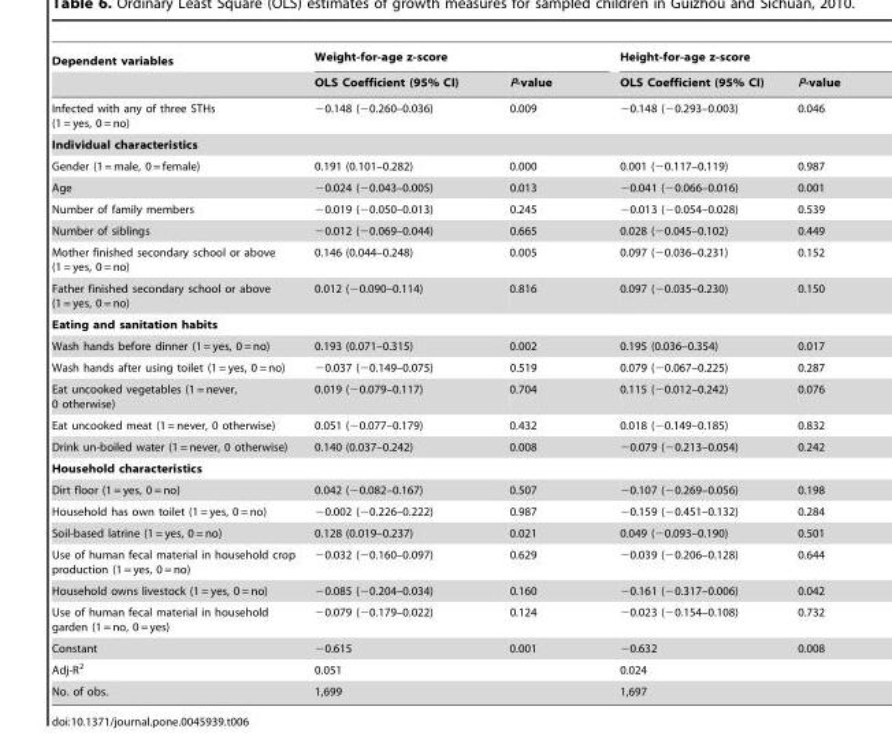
<table><thead><tr><td rowspan="2">Dependent variables</td><td colspan="2">Weight-for-age z-score</td><td colspan="2">Height-for-age z-score</td></tr><tr><td>OLS Coefficient (95% CI)</td><td>P-value</td><td>OLS Coefficient (95% CI)</td><td>P-value</td></tr></thead><tbody><tr><td>Infected with any of three STHs (1 = yes, 0 = no)</td><td>−0.148 (−0.260–0.036)</td><td>0.009</td><td>−0.148 (−0.293–0.003)</td><td>0.046</td></tr><tr><td colspan="5">Individual characteristics</td></tr><tr><td>Gender (1 = male, 0 = female)</td><td>0.191 (0.101–0.282)</td><td>0.000</td><td>0.001 (−0.117–0.119)</td><td>0.987</td></tr><tr><td>Age</td><td>−0.024 (−0.043–0.005)</td><td>0.013</td><td>−0.041 (−0.066–0.016)</td><td>0.001</td></tr><tr><td>Number of family members</td><td>−0.019 (−0.050–0.013)</td><td>0.245</td><td>−0.013 (−0.054–0.028)</td><td>0.539</td></tr><tr><td>Number of siblings</td><td>−0.012 (−0.069–0.044)</td><td>0.665</td><td>0.028 (−0.045–0.102)</td><td>0.449</td></tr><tr><td>Mother finished secondary school or above (1 = yes, 0 = no)</td><td>0.146 (0.044–0.248)</td><td>0.005</td><td>0.097 (−0.036–0.231)</td><td>0.152</td></tr><tr><td>Father finished secondary school or above (1 = yes, 0 = no)</td><td>0.012 (−0.090–0.114)</td><td>0.816</td><td>0.097 (−0.035–0.230)</td><td>0.150</td></tr><tr><td colspan="5">Eating and sanitation habits</td></tr><tr><td>Wash hands before dinner (1 = yes, 0 = no)</td><td>0.193 (0.071–0.315)</td><td>0.002</td><td>0.195 (0.036–0.354)</td><td>0.017</td></tr><tr><td>Wash hands after using toilet (1 = yes, 0 = no)</td><td>−0.037 (−0.149–0.075)</td><td>0.519</td><td>0.079 (−0.067–0.225)</td><td>0.287</td></tr><tr><td>Eat uncooked vegetables (1 = never, 0 otherwise)</td><td>0.019 (−0.079–0.117)</td><td>0.704</td><td>0.115 (−0.012–0.242)</td><td>0.076</td></tr><tr><td>Eat uncooked meat (1 = never, 0 otherwise)</td><td>0.051 (−0.077–0.179)</td><td>0.432</td><td>0.018 (−0.149–0.185)</td><td>0.832</td></tr><tr><td>Drink un-boiled water (1 = never, 0 otherwise)</td><td>0.140 (0.037–0.242)</td><td>0.008</td><td>−0.079 (−0.213–0.054)</td><td>0.242</td></tr><tr><td colspan="5">Household characteristics</td></tr><tr><td>Dirt floor (1 = yes, 0 = no)</td><td>0.042 (−0.082–0.167)</td><td>0.507</td><td>−0.107 (−0.269–0.056)</td><td>0.198</td></tr><tr><td>Household has own toilet (1 = yes, 0 = no)</td><td>−0.002 (−0.226–0.222)</td><td>0.987</td><td>−0.159 (−0.451–0.132)</td><td>0.284</td></tr><tr><td>Soil-based latrine (1 = yes, 0 = no)</td><td>0.128 (0.019–0.237)</td><td>0.021</td><td>0.049 (−0.093–0.190)</td><td>0.501</td></tr><tr><td>Use of human fecal material in household crop production (1 = yes, 0 = no)</td><td>−0.032 (−0.160–0.097)</td><td>0.629</td><td>−0.039 (−0.206–0.128)</td><td>0.644</td></tr><tr><td>Household owns livestock (1 = yes, 0 = no)</td><td>−0.085 (−0.204–0.034)</td><td>0.160</td><td>−0.161 (−0.317–0.006)</td><td>0.042</td></tr><tr><td>Use of human fecal material in household garden (1 = no, 0 = yes)</td><td>−0.079 (−0.179–0.022)</td><td>0.124</td><td>−0.023 (−0.154–0.108)</td><td>0.732</td></tr><tr><td>Constant</td><td>−0.615</td><td>0.001</td><td>−0.632</td><td>0.008</td></tr><tr><td>Adj-R<sup>2</sup></td><td colspan="2">0.051</td><td colspan="2">0.024</td></tr><tr><td>No. of obs.</td><td colspan="2">1,699</td><td colspan="2">1,697</td></tr></tbody></table>